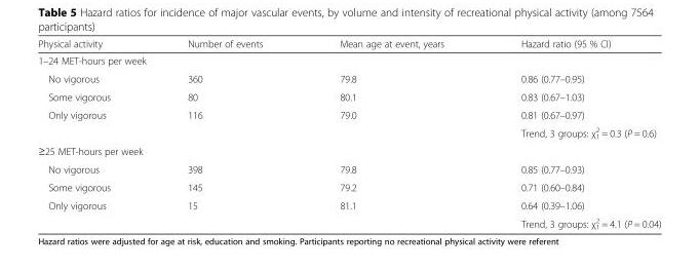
<table><thead><tr><td>Physical activity</td><td>Number of events</td><td>Mean age at event, years</td><td>Hazard ratio (95 % CI)</td></tr></thead><tbody><tr><td colspan="4">1–24 MET-hours per week</td></tr><tr><td>No vigorous</td><td>360</td><td>79.8</td><td>0.86 (0.77–0.95)</td></tr><tr><td>Some vigorous</td><td>80</td><td>80.1</td><td>0.83 (0.67–1.03)</td></tr><tr><td rowspan="2">Only vigorous</td><td>116</td><td>79.0</td><td>0.81 (0.67–0.97)</td></tr><tr><td></td><td></td><td>Trend, 3 groups: χ<sup>2</sup> <sub>1</sub> = 0.3 (P = 0.6)</td></tr><tr><td colspan="4">≥25 MET-hours per week</td></tr><tr><td>No vigorous</td><td>398</td><td>79.8</td><td>0.85 (0.77–0.93)</td></tr><tr><td>Some vigorous</td><td>145</td><td>79.2</td><td>0.71 (0.60–0.84)</td></tr><tr><td rowspan="2">Only vigorous</td><td>15</td><td>81.1</td><td>0.64 (0.39–1.06)</td></tr><tr><td></td><td></td><td>Trend, 3 groups: χ<sup>2</sup> <sub>1</sub> = 4.1 (P = 0.04)</td></tr></tbody></table>